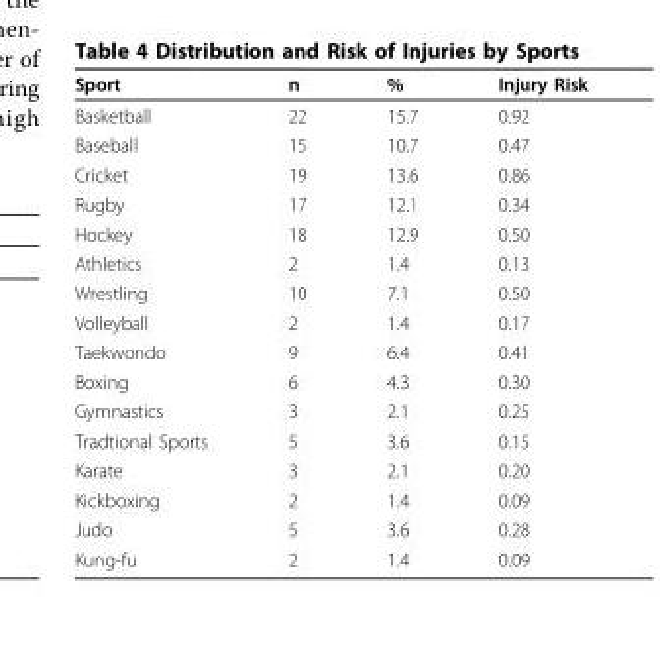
<table><thead><tr><td>Sport</td><td>n</td><td>%</td><td>Injury Risk</td></tr></thead><tbody><tr><td>Basketball</td><td>22</td><td>15.7</td><td>0.92</td></tr><tr><td>Baseball</td><td>15</td><td>10.7</td><td>0.47</td></tr><tr><td>Cricket</td><td>19</td><td>13.6</td><td>0.86</td></tr><tr><td>Rugby</td><td>17</td><td>12.1</td><td>0.34</td></tr><tr><td>Hockey</td><td>18</td><td>12.9</td><td>0.50</td></tr><tr><td>Athletics</td><td>2</td><td>1.4</td><td>0.13</td></tr><tr><td>Wrestling</td><td>10</td><td>7.1</td><td>0.50</td></tr><tr><td>Volleyball</td><td>2</td><td>1.4</td><td>0.17</td></tr><tr><td>Taekwondo</td><td>9</td><td>6.4</td><td>0.41</td></tr><tr><td>Boxing</td><td>6</td><td>4.3</td><td>0.30</td></tr><tr><td>Gymnastics</td><td>3</td><td>2.1</td><td>0.25</td></tr><tr><td>Tradtional Sports</td><td>5</td><td>3.6</td><td>0.15</td></tr><tr><td>Karate</td><td>3</td><td>2.1</td><td>0.20</td></tr><tr><td>Kickboxing</td><td>2</td><td>1.4</td><td>0.09</td></tr><tr><td>Judo</td><td>5</td><td>3.6</td><td>0.28</td></tr><tr><td>Kung-fu</td><td>2</td><td>1.4</td><td>0.09</td></tr></tbody></table>